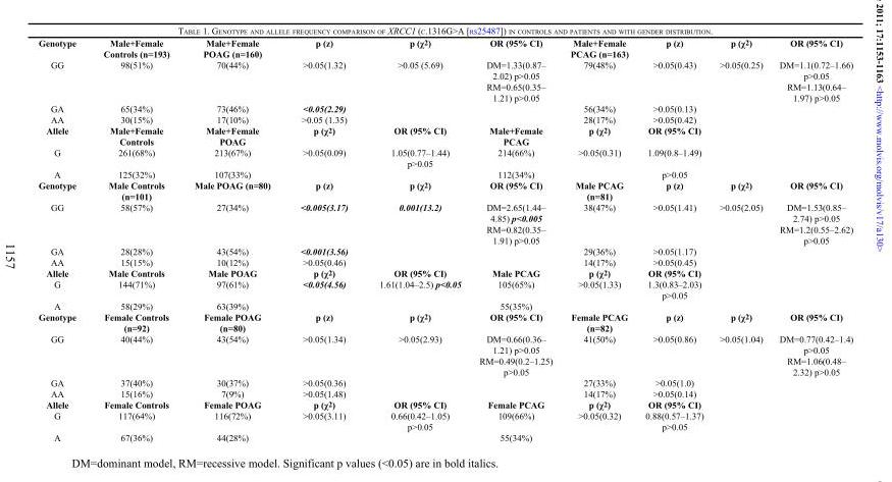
<table><thead><tr><td>Genotype</td><td>Male+Female Controls (n=193)</td><td>Male+Female POAG (n=160)</td><td>p (z)</td><td>p (χ<sup>2</sup>)</td><td>OR (95% CI)</td><td>Male+Female PCAG (n=163)</td><td>p (z)</td><td>p (χ<sup>2</sup>)</td><td>OR (95% CI)</td></tr></thead><tbody><tr><td>GG</td><td>98(51%)</td><td>70(44%)</td><td>&gt;0.05(1.32)</td><td>&gt;0.05 (5.69)</td><td>DM=1.33(0.87– 2.02) p&gt;0.05 RM=0.65(0.35– 1.21) p&gt;0.05</td><td>79(48%)</td><td>&gt;0.05(0.43)</td><td>&gt;0.05(0.25)</td><td>DM=1.1(0.72–1.66) p&gt;0.05 RM=1.13(0.64– 1.97) p&gt;0.05</td></tr><tr><td>GA</td><td>65(34%)</td><td>73(46%)</td><td>&lt;0.05(2.29)</td><td></td><td></td><td>56(34%)</td><td>&gt;0.05(0.13)</td><td></td><td></td></tr><tr><td>AA</td><td>30(15%)</td><td>17(10%)</td><td>&gt;0.05 (1.35)</td><td></td><td></td><td>28(17%)</td><td>&gt;0.05(0.42)</td><td></td><td></td></tr><tr><td>Allele</td><td>Male+Female Controls</td><td>Male+Female POAG</td><td>p (χ<sup>2</sup>)</td><td>OR (95% CI)</td><td>Male+Female PCAG</td><td>p (χ<sup>2</sup>)</td><td>OR (95% CI)</td><td></td><td></td></tr><tr><td>G</td><td>261(68%)</td><td>213(67%)</td><td>&gt;0.05(0.09)</td><td>1.05(0.77–1.44) p&gt;0.05</td><td>214(66%)</td><td>&gt;0.05(0.31)</td><td>1.09(0.8–1.49)</td><td></td><td></td></tr><tr><td>A</td><td>125(32%)</td><td>107(33%)</td><td></td><td></td><td>112(34%)</td><td></td><td>p&gt;0.05</td><td></td><td></td></tr><tr><td>Genotype</td><td>Male Controls (n=101)</td><td>Male POAG (n=80)</td><td>p (z)</td><td>p (χ<sup>2</sup>)</td><td>OR (95% CI)</td><td>Male PCAG (n=81)</td><td>p (z)</td><td>p (χ<sup>2</sup>)</td><td>OR (95% CI)</td></tr><tr><td>GG</td><td>58(57%)</td><td>27(34%)</td><td>&lt;0.005(3.17)</td><td>0.001(13.2)</td><td>DM=2.65(1.44– 4.85) p&lt;0.005 RM=0.82(0.35– 1.91) p&gt;0.05</td><td>38(47%)</td><td>&gt;0.05(1.41)</td><td>&gt;0.05(2.05)</td><td>DM=1.53(0.85– 2.74) p&gt;0.05 RM=1.2(0.55–2.62) p&gt;0.05</td></tr><tr><td>GA</td><td>28(28%)</td><td>43(54%)</td><td>&lt;0.001(3.56)</td><td></td><td></td><td>29(36%)</td><td>&gt;0.05(1.17)</td><td></td><td></td></tr><tr><td>AA</td><td>15(15%)</td><td>10(12%)</td><td>&gt;0.05(0.46)</td><td></td><td></td><td>14(17%)</td><td>&gt;0.05(0.45)</td><td></td><td></td></tr><tr><td>Allele</td><td>Male Controls</td><td>Male POAG</td><td>p (χ<sup>2</sup>)</td><td>OR (95% CI)</td><td>Male PCAG</td><td>p (χ<sup>2</sup>)</td><td>OR (95% CI)</td><td></td><td></td></tr><tr><td>G</td><td>144(71%)</td><td>97(61%)</td><td>&lt;0.05(4.56)</td><td>1.61(1.04–2.5) p&lt;0.05</td><td>105(65%)</td><td>&gt;0.05(1.33)</td><td>1.3(0.83–2.03) p&gt;0.05</td><td></td><td></td></tr><tr><td>A</td><td>58(29%)</td><td>63(39%)</td><td></td><td></td><td>55(35%)</td><td></td><td></td><td></td><td></td></tr><tr><td>Genotype</td><td>Female Controls (n=92)</td><td>Female POAG (n=80)</td><td>p (z)</td><td>p (χ<sup>2</sup>)</td><td>OR (95% CI)</td><td>Female PCAG (n=82)</td><td>p (z)</td><td>p (χ<sup>2</sup>)</td><td>OR (95% CI)</td></tr><tr><td>GG</td><td>40(44%)</td><td>43(54%)</td><td>&gt;0.05(1.34)</td><td>&gt;0.05(2.93)</td><td>DM=0.66(0.36– 1.21) p&gt;0.05 RM=0.49(0.2–1.25) p&gt;0.05</td><td>41(50%)</td><td>&gt;0.05(0.86)</td><td>&gt;0.05(1.04)</td><td>DM=0.77(0.42–1.4) p&gt;0.05 RM=1.06(0.48– 2.32) p&gt;0.05</td></tr><tr><td>GA</td><td>37(40%)</td><td>30(37%)</td><td>&gt;0.05(0.36)</td><td></td><td></td><td>27(33%)</td><td>&gt;0.05(1.0)</td><td></td><td></td></tr><tr><td>AA</td><td>15(16%)</td><td>7(9%)</td><td>&gt;0.05(1.48)</td><td></td><td></td><td>14(17%)</td><td>&gt;0.05(0.14)</td><td></td><td></td></tr><tr><td>Allele</td><td>Female Controls</td><td>Female POAG</td><td>p (χ<sup>2</sup>)</td><td>OR (95% CI)</td><td>Female PCAG</td><td>p (χ<sup>2</sup>)</td><td>OR (95% CI)</td><td></td><td></td></tr><tr><td>G</td><td>117(64%)</td><td>116(72%)</td><td>&gt;0.05(3.11)</td><td>0.66(0.42–1.05) p&gt;0.05</td><td>109(66%)</td><td>&gt;0.05(0.32)</td><td>0.88(0.57–1.37) p&gt;0.05</td><td></td><td></td></tr><tr><td>A</td><td>67(36%)</td><td>44(28%)</td><td></td><td></td><td>55(34%)</td><td></td><td></td><td></td><td></td></tr></tbody></table>